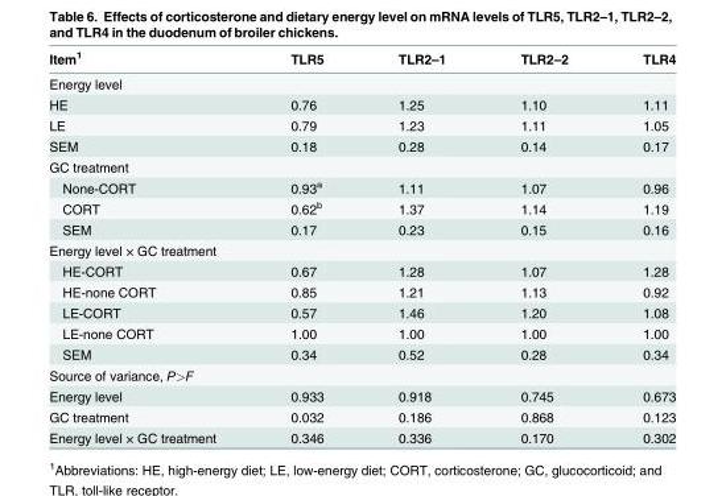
<table><thead><tr><td>Item<sup>1</sup></td><td>TLR5</td><td>TLR2–1</td><td>TLR2–2</td><td>TLR4</td></tr></thead><tbody><tr><td colspan="5">Energy level</td></tr><tr><td>HE</td><td>0.76</td><td>1.25</td><td>1.10</td><td>1.11</td></tr><tr><td>LE</td><td>0.79</td><td>1.23</td><td>1.11</td><td>1.05</td></tr><tr><td>SEM</td><td>0.18</td><td>0.28</td><td>0.14</td><td>0.17</td></tr><tr><td colspan="5">GC treatment</td></tr><tr><td>None-CORT</td><td>0.93<sup>a</sup></td><td>1.11</td><td>1.07</td><td>0.96</td></tr><tr><td>CORT</td><td>0.62<sup>b</sup></td><td>1.37</td><td>1.14</td><td>1.19</td></tr><tr><td>SEM</td><td>0.17</td><td>0.23</td><td>0.15</td><td>0.16</td></tr><tr><td colspan="5">Energy level × GC treatment</td></tr><tr><td>HE-CORT</td><td>0.67</td><td>1.28</td><td>1.07</td><td>1.28</td></tr><tr><td>HE-none CORT</td><td>0.85</td><td>1.21</td><td>1.13</td><td>0.92</td></tr><tr><td>LE-CORT</td><td>0.57</td><td>1.46</td><td>1.20</td><td>1.08</td></tr><tr><td>LE-none CORT</td><td>1.00</td><td>1.00</td><td>1.00</td><td>1.00</td></tr><tr><td>SEM</td><td>0.34</td><td>0.52</td><td>0.28</td><td>0.34</td></tr><tr><td colspan="5">Source of variance, P&gt;F</td></tr><tr><td>Energy level</td><td>0.933</td><td>0.918</td><td>0.745</td><td>0.673</td></tr><tr><td>GC treatment</td><td>0.032</td><td>0.186</td><td>0.868</td><td>0.123</td></tr><tr><td>Energy level × GC treatment</td><td>0.346</td><td>0.336</td><td>0.170</td><td>0.302</td></tr></tbody></table>